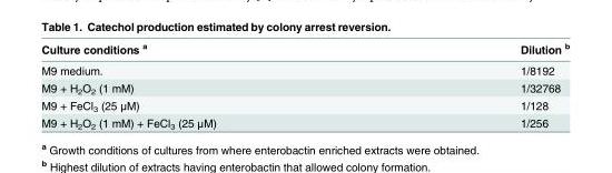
<table><thead><tr><td>Culture conditions <sup>a</sup></td><td>Dilution <sup>b</sup></td></tr></thead><tbody><tr><td>M9 medium.</td><td>1/8192</td></tr><tr><td>M9 + H<sub>2</sub>O<sub>2</sub> (1 mM)</td><td>1/32768</td></tr><tr><td>M9 + FeCl<sub>3</sub> (25 μM)</td><td>1/128</td></tr><tr><td>M9 + H<sub>2</sub>O<sub>2</sub> (1 mM) + FeCl<sub>3</sub> (25 μM)</td><td>1/256</td></tr></tbody></table>